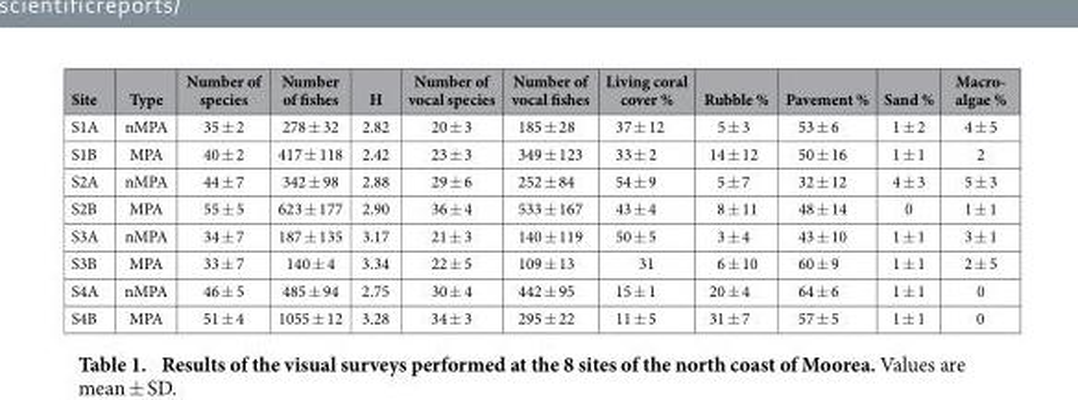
<table><thead><tr><td>Site</td><td>Type</td><td>Number of species</td><td>Number of fishes</td><td>H</td><td>Number of vocal species</td><td>Number of vocal fishes</td><td>Living coral cover %</td><td>Rubble %</td><td>Pavement %</td><td>Sand %</td><td>Macro- algae %</td></tr></thead><tbody><tr><td>S1A</td><td>nMPA</td><td>35 ± 2</td><td>278 ± 32</td><td>2.82</td><td>20 ± 3</td><td>185 ± 28</td><td>37 ± 12</td><td>5 ± 3</td><td>53 ± 6</td><td>1 ± 2</td><td>4 ± 5</td></tr><tr><td>S1B</td><td>MPA</td><td>40 ± 2</td><td>417 ± 118</td><td>2.42</td><td>23 ± 3</td><td>349 ± 123</td><td>33 ± 2</td><td>14 ± 12</td><td>50 ± 16</td><td>1 ± 1</td><td>2</td></tr><tr><td>S2A</td><td>nMPA</td><td>44 ± 7</td><td>342 ± 98</td><td>2.88</td><td>29 ± 6</td><td>252 ± 84</td><td>54 ± 9</td><td>5 ± 7</td><td>32 ± 12</td><td>4 ± 3</td><td>5 ± 3</td></tr><tr><td>S2B</td><td>MPA</td><td>55 ± 5</td><td>623 ± 177</td><td>2.90</td><td>36 ± 4</td><td>533 ± 167</td><td>43 ± 4</td><td>8 ± 11</td><td>48 ± 14</td><td>0</td><td>1 ± 1</td></tr><tr><td>S3A</td><td>nMPA</td><td>34 ± 7</td><td>187 ± 135</td><td>3.17</td><td>21 ± 3</td><td>140 ± 119</td><td>50 ± 5</td><td>3 ± 4</td><td>43 ± 10</td><td>1 ± 1</td><td>3 ± 1</td></tr><tr><td>S3B</td><td>MPA</td><td>33 ± 7</td><td>140 ± 4</td><td>3.34</td><td>22 ± 5</td><td>109 ± 13</td><td>31</td><td>6 ± 10</td><td>60 ± 9</td><td>1 ± 1</td><td>2 ± 5</td></tr><tr><td>S4A</td><td>nMPA</td><td>46 ± 5</td><td>485 ± 94</td><td>2.75</td><td>30 ± 4</td><td>442 ± 95</td><td>15 ± 1</td><td>20 ± 4</td><td>64 ± 6</td><td>1 ± 1</td><td>0</td></tr><tr><td>S4B</td><td>MPA</td><td>51 ± 4</td><td>1055 ± 12</td><td>3.28</td><td>34 ± 3</td><td>295 ± 22</td><td>11 ± 5</td><td>31 ± 7</td><td>57 ± 5</td><td>1 ± 1</td><td>0</td></tr></tbody></table>